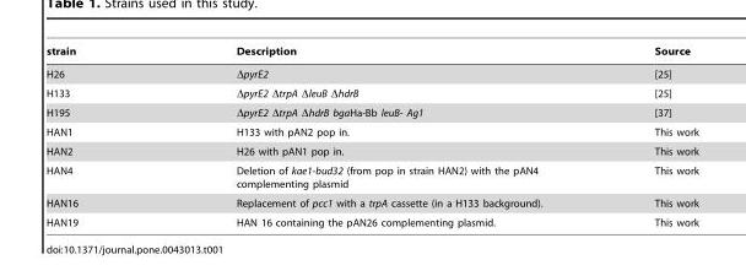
<table><thead><tr><td>strain</td><td>Description</td><td>Source</td></tr></thead><tbody><tr><td>H26</td><td>ΔpyrE2</td><td>[25]</td></tr><tr><td>H133</td><td>ΔpyrE2 ΔtrpA ΔleuB ΔhdrB</td><td>[25]</td></tr><tr><td>H195</td><td>ΔpyrE2 ΔtrpA ΔhdrB bgaHa-Bb leuB- Ag1</td><td>[37]</td></tr><tr><td>HAN1</td><td>H133 with pAN2 pop in.</td><td>This work</td></tr><tr><td>HAN2</td><td>H26 with pAN1 pop in.</td><td>This work</td></tr><tr><td>HAN4</td><td>Deletion of kae1-bud32 (from pop in strain HAN2) with the pAN4 complementing plasmid</td><td>This work</td></tr><tr><td>HAN16</td><td>Replacement of pcc1 with a trpA cassette (in a H133 background).</td><td>This work</td></tr><tr><td>HAN19</td><td>HAN 16 containing the pAN26 complementing plasmid.</td><td>This work</td></tr></tbody></table>